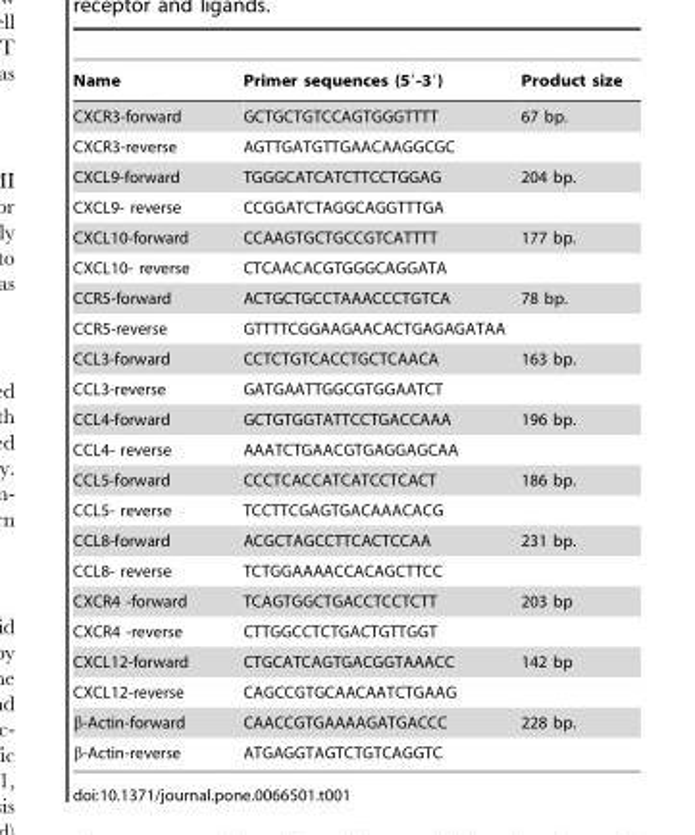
<table><thead><tr><td>Name</td><td>Primer sequences (5′-3′)</td><td>Product size</td></tr></thead><tbody><tr><td>CXCR3-forward</td><td>GCTGCTGTCCAGTGGGTTTT</td><td>67 bp.</td></tr><tr><td>CXCR3-reverse</td><td>AGTTGATGTTGAACAAGGCGC</td><td></td></tr><tr><td>CXCL9-forward</td><td>TGGGCATCATCTTCCTGGAG</td><td>204 bp.</td></tr><tr><td>CXCL9- reverse</td><td>CCGGATCTAGGCAGGTTTGA</td><td></td></tr><tr><td>CXCL10-forward</td><td>CCAAGTGCTGCCGTCATTTT</td><td>177 bp.</td></tr><tr><td>CXCL10- reverse</td><td>CTCAACACGTGGGCAGGATA</td><td></td></tr><tr><td>CCR5-forward</td><td>ACTGCTGCCTAAACCCTGTCA</td><td>78 bp.</td></tr><tr><td>CCR5-reverse</td><td>GTTTTCGGAAGAACACTGAGAGATAA</td><td></td></tr><tr><td>CCL3-forward</td><td>CCTCTGTCACCTGCTCAACA</td><td>163 bp.</td></tr><tr><td>CCL3-reverse</td><td>GATGAATTGGCGTGGAATCT</td><td></td></tr><tr><td>CCL4-forward</td><td>GCTGTGGTATTCCTGACCAAA</td><td>196 bp.</td></tr><tr><td>CCL4- reverse</td><td>AAATCTGAACGTGAGGAGCAA</td><td></td></tr><tr><td>CCL5-forward</td><td>CCCTCACCATCATCCTCACT</td><td>186 bp.</td></tr><tr><td>CCL5- reverse</td><td>TCCTTCGAGTGACAAACACG</td><td></td></tr><tr><td>CCL8-forward</td><td>ACGCTAGCCTTCACTCCAA</td><td>231 bp.</td></tr><tr><td>CCL8- reverse</td><td>TCTGGAAAACCACAGCTTCC</td><td></td></tr><tr><td>CXCR4 -forward</td><td>TCAGTGGCTGACCTCCTCTT</td><td>203 bp</td></tr><tr><td>CXCR4 -reverse</td><td>CTTGGCCTCTGACTGTTGGT</td><td></td></tr><tr><td>CXCL12-forward</td><td>CTGCATCAGTGACGGTAAACC</td><td>142 bp</td></tr><tr><td>CXCL12-reverse</td><td>CAGCCGTGCAACAATCTGAAG</td><td></td></tr><tr><td>β-Actin-forward</td><td>CAACCGTGAAAAGATGACCC</td><td>228 bp.</td></tr><tr><td>β-Actin-reverse</td><td>ATGAGGTAGTCTGTCAGGTC</td><td></td></tr></tbody></table>